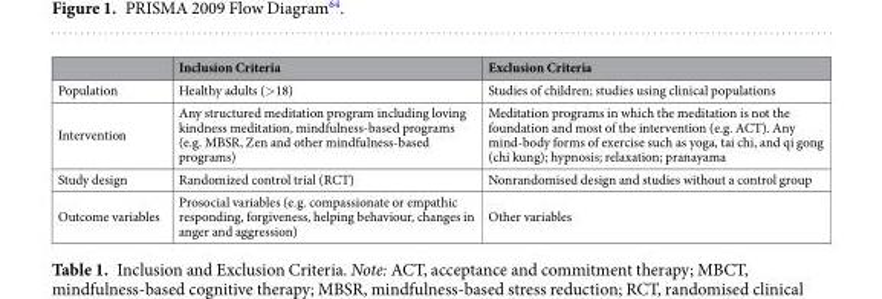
<table><thead><tr><td></td><td>Inclusion Criteria</td><td>Exclusion Criteria</td></tr></thead><tbody><tr><td>Population</td><td>Healthy adults (&gt;18)</td><td>Studies of children; studies using clinical populations</td></tr><tr><td>Intervention</td><td>Any structured meditation program including loving kindness meditation, mindfulness-based programs (e.g. MBSR, Zen and other mindfulness-based programs)</td><td>Meditation programs in which the meditation is not the foundation and most of the intervention (e.g. ACT). Any mind-body forms of exercise such as yoga, tai chi, and qi gong (chi kung); hypnosis; relaxation; pranayama</td></tr><tr><td>Study design</td><td>Randomized control trial (RCT)</td><td>Nonrandomised design and studies without a control group</td></tr><tr><td>Outcome variables</td><td>Prosocial variables (e.g. compassionate or empathic responding, forgiveness, helping behaviour, changes in anger and aggression)</td><td>Other variables</td></tr></tbody></table>